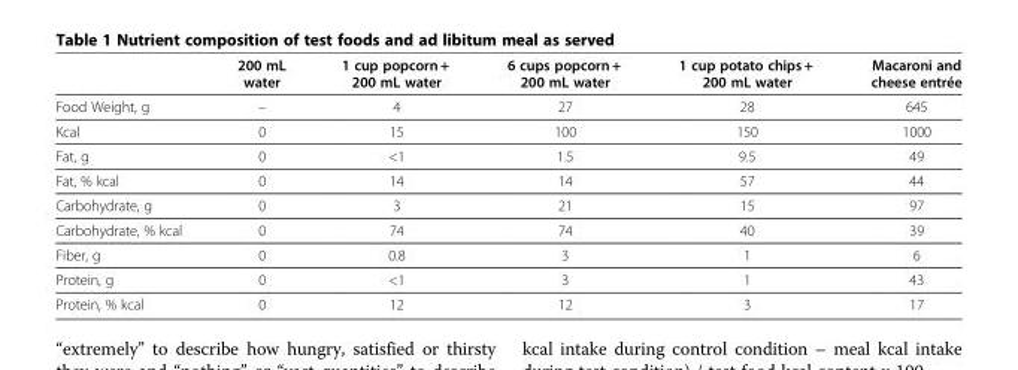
<table><thead><tr><td></td><td>200 mL water</td><td>1 cup popcorn + 200 mL water</td><td>6 cups popcorn + 200 mL water</td><td>1 cup potato chips + 200 mL water</td><td>Macaroni and cheese entrée</td></tr></thead><tbody><tr><td>Food Weight, g</td><td>–</td><td>4</td><td>27</td><td>28</td><td>645</td></tr><tr><td>Kcal</td><td>0</td><td>15</td><td>100</td><td>150</td><td>1000</td></tr><tr><td>Fat, g</td><td>0</td><td>&lt;1</td><td>1.5</td><td>9.5</td><td>49</td></tr><tr><td>Fat, % kcal</td><td>0</td><td>14</td><td>14</td><td>57</td><td>44</td></tr><tr><td>Carbohydrate, g</td><td>0</td><td>3</td><td>21</td><td>15</td><td>97</td></tr><tr><td>Carbohydrate, % kcal</td><td>0</td><td>74</td><td>74</td><td>40</td><td>39</td></tr><tr><td>Fiber, g</td><td>0</td><td>0.8</td><td>3</td><td>1</td><td>6</td></tr><tr><td>Protein, g</td><td>0</td><td>&lt;1</td><td>3</td><td>1</td><td>43</td></tr><tr><td>Protein, % kcal</td><td>0</td><td>12</td><td>12</td><td>3</td><td>17</td></tr></tbody></table>